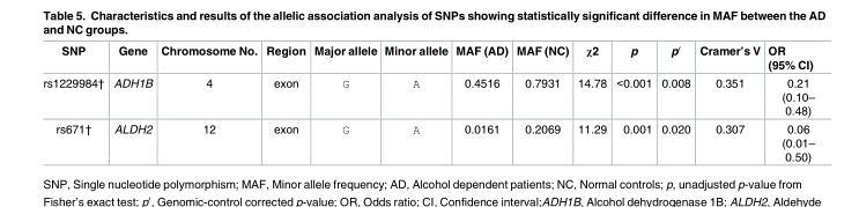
<table><thead><tr><td>SNP</td><td>Gene</td><td>Chromosome No.</td><td>Region</td><td>Major allele</td><td>Minor allele</td><td>MAF (AD)</td><td>MAF (NC)</td><td>χ2</td><td>p</td><td>p′</td><td>Cramer’s V</td><td>OR (95% CI)</td></tr></thead><tbody><tr><td>rs1229984†</td><td>ADH1B</td><td>4</td><td>exon</td><td>G</td><td>A</td><td>0.4516</td><td>0.7931</td><td>14.78</td><td>&lt;0.001</td><td>0.008</td><td>0.351</td><td>0.21 (0.10– 0.48)</td></tr><tr><td>rs671†</td><td>ALDH2</td><td>12</td><td>exon</td><td>G</td><td>A</td><td>0.0161</td><td>0.2069</td><td>11.29</td><td>0.001</td><td>0.020</td><td>0.307</td><td>0.06 (0.01– 0.50)</td></tr></tbody></table>